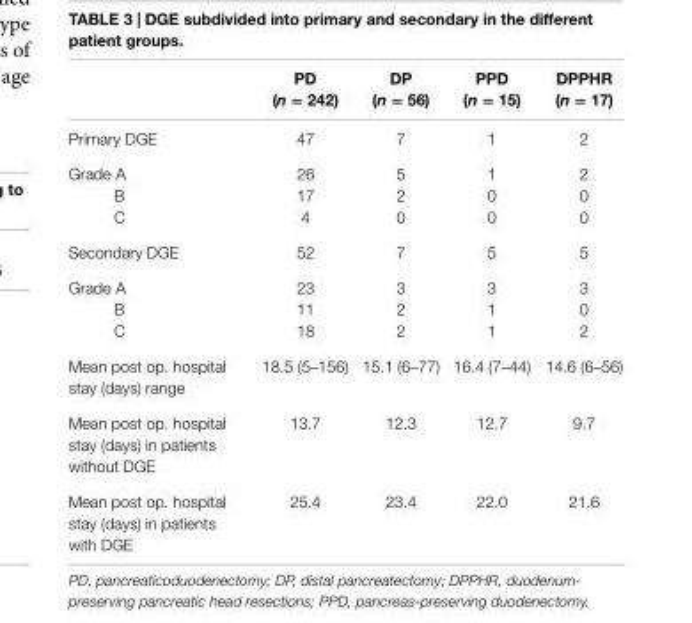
<table><thead><tr><td></td><td>PD (n = 242)</td><td>DP (n = 56)</td><td>PPD (n = 15)</td><td>DPPhr (n = 17)</td></tr></thead><tbody><tr><td>Primary DGE</td><td>47</td><td>7</td><td>1</td><td>2</td></tr><tr><td>Grade A</td><td>26</td><td>5</td><td>1</td><td>2</td></tr><tr><td>B</td><td>17</td><td>2</td><td>0</td><td>0</td></tr><tr><td>C</td><td>4</td><td>0</td><td>0</td><td>0</td></tr><tr><td>Secondary DGE</td><td>52</td><td>7</td><td>5</td><td>5</td></tr><tr><td>Grade A</td><td>23</td><td>3</td><td>3</td><td>3</td></tr><tr><td>B</td><td>11</td><td>2</td><td>1</td><td>0</td></tr><tr><td>C</td><td>18</td><td>2</td><td>1</td><td>2</td></tr><tr><td>Mean post op. hospital stay (days) range</td><td>18.5 (5–156)</td><td>15.1 (6–77)</td><td>16.4 (7–44)</td><td>14.6 (6–56)</td></tr><tr><td>Mean post op. hospital stay (days) in patients without DGE</td><td>13.7</td><td>12.3</td><td>12.7</td><td>9.7</td></tr><tr><td>Mean post op. hospital stay (days) in patients with DGE</td><td>25.4</td><td>23.4</td><td>22.0</td><td>21.6</td></tr></tbody></table>